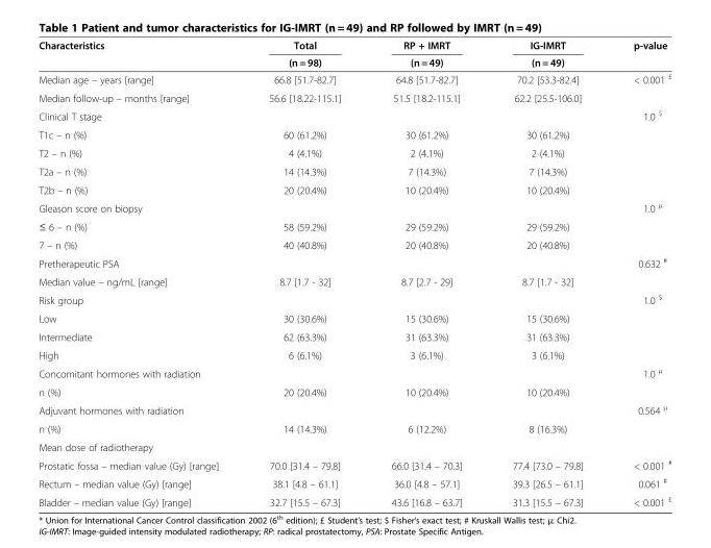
<table><thead><tr><td rowspan="2">Characteristics</td><td rowspan="2">Total (n = 98)</td><td rowspan="2">RP + IMRT (n = 49)</td><td rowspan="2">IG-IMRT (n = 49)</td><td rowspan="2">p-value</td></tr><tr></tr></thead><tbody><tr><td>Median age – years [range]</td><td>66.8 [51.7-82.7]</td><td>64.8 [51.7-82.7]</td><td>70.2 [53.3-82.4]</td><td rowspan="2">&lt; 0.001 <sup>£</sup></td></tr><tr><td>Median follow-up – months [range]</td><td>56.6 [18.22-115.1]</td><td>51.5 [18.2-115.1]</td><td>62.2 [25.5-106.0]</td></tr><tr><td colspan="4">Clinical T stage</td><td rowspan="5">1.0 <sup>$</sup></td></tr><tr><td>T1c – n (%)</td><td>60 (61.2%)</td><td>30 (61.2%)</td><td>30 (61.2%)</td></tr><tr><td>T2 – n (%)</td><td>4 (4.1%)</td><td>2 (4.1%)</td><td>2 (4.1%)</td></tr><tr><td>T2a – n (%)</td><td>14 (14.3%)</td><td>7 (14.3%)</td><td>7 (14.3%)</td></tr><tr><td>T2b – n (%)</td><td>20 (20.4%)</td><td>10 (20.4%)</td><td>10 (20.4%)</td></tr><tr><td colspan="4">Gleason score on biopsy</td><td rowspan="3">1.0 <sup>μ</sup></td></tr><tr><td>≤ 6 – n (%)</td><td>58 (59.2%)</td><td>29 (59.2%)</td><td>29 (59.2%)</td></tr><tr><td>7 – n (%)</td><td>40 (40.8%)</td><td>20 (40.8%)</td><td>20 (40.8%)</td></tr><tr><td colspan="4">Pretherapeutic PSA</td><td rowspan="2">0.632 <sup>#</sup></td></tr><tr><td>Median value – ng/mL [range]</td><td>8.7 [1.7 - 32]</td><td>8.7 [2.7 - 29]</td><td>8.7 [1.7 - 32]</td></tr><tr><td colspan="4">Risk group</td><td rowspan="4">1.0 <sup>$</sup></td></tr><tr><td>Low</td><td>30 (30.6%)</td><td>15 (30.6%)</td><td>15 (30.6%)</td></tr><tr><td>Intermediate</td><td>62 (63.3%)</td><td>31 (63.3%)</td><td>31 (63.3%)</td></tr><tr><td>High</td><td>6 (6.1%)</td><td>3 (6.1%)</td><td>3 (6.1%)</td></tr><tr><td colspan="4">Concomitant hormones with radiation</td><td rowspan="2">1.0 <sup>μ</sup></td></tr><tr><td>n (%)</td><td>20 (20.4%)</td><td>10 (20.4%)</td><td>10 (20.4%)</td></tr><tr><td colspan="4">Adjuvant hormones with radiation</td><td rowspan="2">0.564 <sup>μ</sup></td></tr><tr><td>n (%)</td><td>14 (14.3%)</td><td>6 (12.2%)</td><td>8 (16.3%)</td></tr><tr><td colspan="5">Mean dose of radiotherapy</td></tr><tr><td>Prostatic fossa – median value (Gy) [range]</td><td>70.0 [31.4 – 79.8]</td><td>66.0 [31.4 – 70.3]</td><td>77.4 [73.0 – 79.8]</td><td>&lt; 0.001 <sup>#</sup></td></tr><tr><td>Rectum – median value (Gy) [range]</td><td>38.1 [4.8 – 61.1]</td><td>36.0 [4.8 – 57.1]</td><td>39.3 [26.5 – 61.1]</td><td>0.061 <sup>#</sup></td></tr><tr><td>Bladder – median value (Gy) [range]</td><td>32.7 [15.5 – 67.3]</td><td>43.6 [16.8 – 63.7]</td><td>31.3 [15.5 – 67.3]</td><td>&lt; 0.001 <sup>£</sup></td></tr></tbody></table>